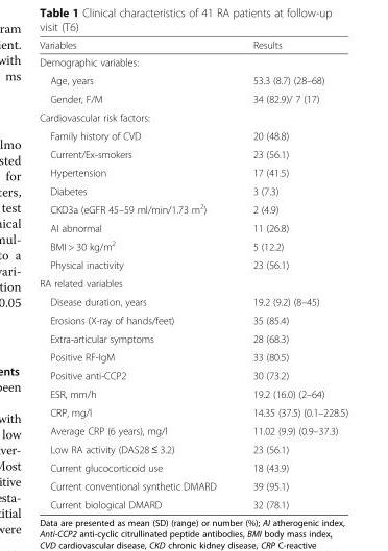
<table><thead><tr><td>Variables</td><td>Results</td></tr></thead><tbody><tr><td colspan="2">Demographic variables:</td></tr><tr><td>Age, years</td><td>53.3 (8.7) (28–68)</td></tr><tr><td>Gender, F/M</td><td>34 (82.9)/ 7 (17)</td></tr><tr><td colspan="2">Cardiovascular risk factors:</td></tr><tr><td>Family history of CVD</td><td>20 (48.8)</td></tr><tr><td>Current/Ex-smokers</td><td>23 (56.1)</td></tr><tr><td>Hypertension</td><td>17 (41.5)</td></tr><tr><td>Diabetes</td><td>3 (7.3)</td></tr><tr><td>CKD3a (eGFR 45–59 ml/min/1.73 m<sup>2</sup>)</td><td>2 (4.9)</td></tr><tr><td>AI abnormal</td><td>11 (26.8)</td></tr><tr><td>BMI &gt; 30 kg/m<sup>2</sup></td><td>5 (12.2)</td></tr><tr><td>Physical inactivity</td><td>23 (56.1)</td></tr><tr><td colspan="2">RA related variables</td></tr><tr><td>Disease duration, years</td><td>19.2 (9.2) (8–45)</td></tr><tr><td>Erosions (X-ray of hands/feet)</td><td>35 (85.4)</td></tr><tr><td>Extra-articular symptoms</td><td>28 (68.3)</td></tr><tr><td>Positive RF-IgM</td><td>33 (80.5)</td></tr><tr><td>Positive anti-CCP2</td><td>30 (73.2)</td></tr><tr><td>ESR, mm/h</td><td>19.2 (16.0) (2–64)</td></tr><tr><td>CRP, mg/l</td><td>14.35 (37.5) (0.1–228.5)</td></tr><tr><td>Average CRP (6 years), mg/l</td><td>11.02 (9.9) (0.9–37.3)</td></tr><tr><td>Low RA activity (DAS28 ≤ 3.2)</td><td>23 (56.1)</td></tr><tr><td>Current glucocorticoid use</td><td>18 (43.9)</td></tr><tr><td>Current conventional synthetic DMARD</td><td>39 (95.1)</td></tr><tr><td>Current biological DMARD</td><td>32 (78.1)</td></tr></tbody></table>